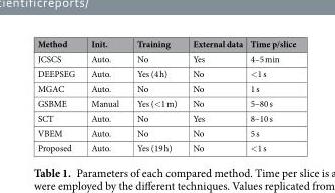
<table><thead><tr><td>Method</td><td>Init.</td><td>Training</td><td>External data</td><td>Time p/slice</td></tr></thead><tbody><tr><td>JCSCS</td><td>Auto.</td><td>No</td><td>Yes</td><td>4–5 min</td></tr><tr><td>DEEPSEG</td><td>Auto.</td><td>Yes (4 h)</td><td>No</td><td>&lt;1 s</td></tr><tr><td>MGAC</td><td>Auto.</td><td>No</td><td>No</td><td>1 s</td></tr><tr><td>GSBME</td><td>Manual</td><td>Yes (&lt;1 m)</td><td>No</td><td>5–80 s</td></tr><tr><td>SCT</td><td>Auto.</td><td>No</td><td>Yes</td><td>8–10 s</td></tr><tr><td>VBEM</td><td>Auto.</td><td>No</td><td>No</td><td>5 s</td></tr><tr><td>Proposed</td><td>Auto.</td><td>Yes (19 h)</td><td>No</td><td>&lt;1 s</td></tr></tbody></table>